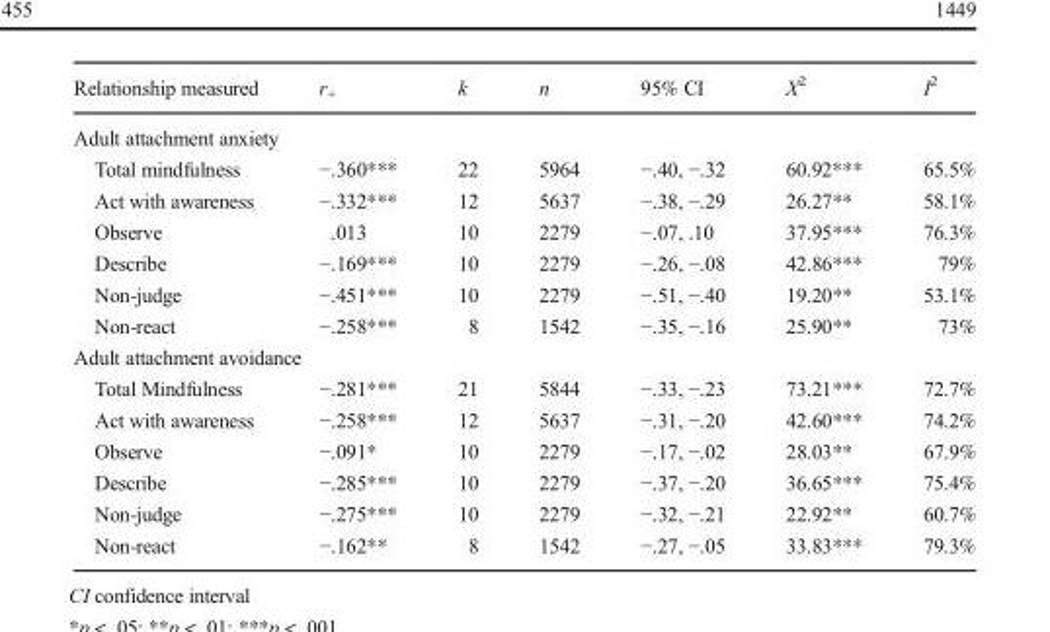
<table><thead><tr><td>Relationship measured</td><td>r<sub>+</sub></td><td>k</td><td>n</td><td>95% CI</td><td>X<sup>2</sup></td><td>I<sup>2</sup></td></tr></thead><tbody><tr><td colspan="7">Adult attachment anxiety</td></tr><tr><td>Total mindfulness</td><td>−.360***</td><td>22</td><td>5964</td><td>−.40, −.32</td><td>60.92***</td><td>65.5%</td></tr><tr><td>Act with awareness</td><td>−.332***</td><td>12</td><td>5637</td><td>−.38, −.29</td><td>26.27**</td><td>58.1%</td></tr><tr><td>Observe</td><td>.013</td><td>10</td><td>2279</td><td>−.07, .10</td><td>37.95***</td><td>76.3%</td></tr><tr><td>Describe</td><td>−.169***</td><td>10</td><td>2279</td><td>−.26, −.08</td><td>42.86***</td><td>79%</td></tr><tr><td>Non-judge</td><td>−.451***</td><td>10</td><td>2279</td><td>−.51, −.40</td><td>19.20**</td><td>53.1%</td></tr><tr><td>Non-react</td><td>−.258***</td><td>8</td><td>1542</td><td>−.35, −.16</td><td>25.90**</td><td>73%</td></tr><tr><td colspan="7">Adult attachment avoidance</td></tr><tr><td>Total Mindfulness</td><td>−.281***</td><td>21</td><td>5844</td><td>−.33, −.23</td><td>73.21***</td><td>72.7%</td></tr><tr><td>Act with awareness</td><td>−.258***</td><td>12</td><td>5637</td><td>−.31, −.20</td><td>42.60***</td><td>74.2%</td></tr><tr><td>Observe</td><td>−.091*</td><td>10</td><td>2279</td><td>−.17, −.02</td><td>28.03**</td><td>67.9%</td></tr><tr><td>Describe</td><td>−.285***</td><td>10</td><td>2279</td><td>−.37, −.20</td><td>36.65***</td><td>75.4%</td></tr><tr><td>Non-judge</td><td>−.275***</td><td>10</td><td>2279</td><td>−.32, −.21</td><td>22.92**</td><td>60.7%</td></tr><tr><td>Non-react</td><td>−.162**</td><td>8</td><td>1542</td><td>−.27, −.05</td><td>33.83***</td><td>79.3%</td></tr></tbody></table>